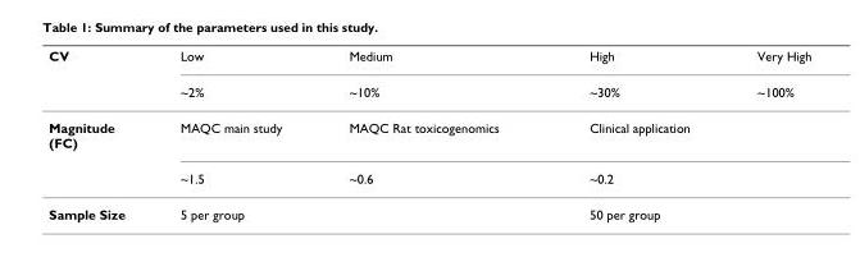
<table><thead><tr><td rowspan="2">CV</td><td rowspan="2">Low ~2%</td><td rowspan="2">Medium ~10%</td><td rowspan="2">High ~30%</td><td rowspan="2">Very High ~100%</td></tr><tr></tr></thead><tbody><tr><td rowspan="2">Magnitude (FC)</td><td>MAQC main study</td><td>MAQC Rat toxicogenomics</td><td>Clinical application</td><td></td></tr><tr><td>~1.5</td><td>~0.6</td><td>~0.2</td><td></td></tr><tr><td>Sample Size</td><td colspan="2">5 per group</td><td colspan="2">50 per group</td></tr></tbody></table>